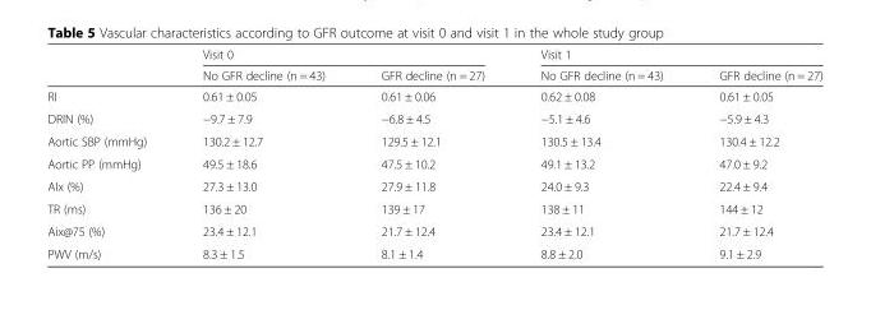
<table><thead><tr><td rowspan="2"></td><td colspan="2">Visit 0</td><td colspan="2">Visit 1</td></tr><tr><td>No GFR decline (n = 43)</td><td>GFR decline (n = 27)</td><td>No GFR decline (n = 43)</td><td>GFR decline (n = 27)</td></tr></thead><tbody><tr><td>RI</td><td>0.61 ± 0.05</td><td>0.61 ± 0.06</td><td>0.62 ± 0.08</td><td>0.61 ± 0.05</td></tr><tr><td>DRIN (%)</td><td>−9.7 ± 7.9</td><td>−6.8 ± 4.5</td><td>−5.1 ± 4.6</td><td>−5.9 ± 4.3</td></tr><tr><td>Aortic SBP (mmHg)</td><td>130.2 ± 12.7</td><td>129.5 ± 12.1</td><td>130.5 ± 13.4</td><td>130.4 ± 12.2</td></tr><tr><td>Aortic PP (mmHg)</td><td>49.5 ± 18.6</td><td>47.5 ± 10.2</td><td>49.1 ± 13.2</td><td>47.0 ± 9.2</td></tr><tr><td>AIx (%)</td><td>27.3 ± 13.0</td><td>27.9 ± 11.8</td><td>24.0 ± 9.3</td><td>22.4 ± 9.4</td></tr><tr><td>TR (ms)</td><td>136 ± 20</td><td>139 ± 17</td><td>138 ± 11</td><td>144 ± 12</td></tr><tr><td>Aix@75 (%)</td><td>23.4 ± 12.1</td><td>21.7 ± 12.4</td><td>23.4 ± 12.1</td><td>21.7 ± 12.4</td></tr><tr><td>PWV (m/s)</td><td>8.3 ± 1.5</td><td>8.1 ± 1.4</td><td>8.8 ± 2.0</td><td>9.1 ± 2.9</td></tr></tbody></table>